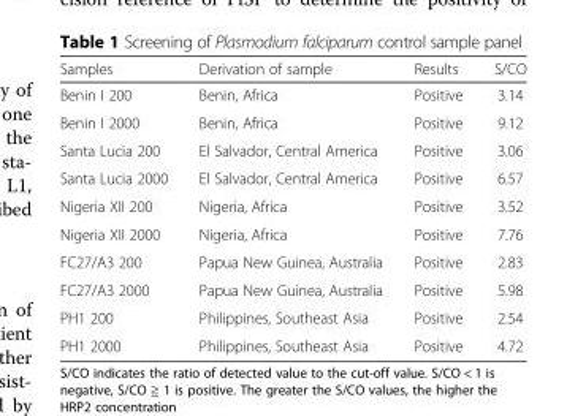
<table><thead><tr><td>Samples</td><td>Derivation of sample</td><td>Results</td><td>S/CO</td></tr></thead><tbody><tr><td>Benin I 200</td><td>Benin, Africa</td><td>Positive</td><td>3.14</td></tr><tr><td>Benin I 2000</td><td>Benin, Africa</td><td>Positive</td><td>9.12</td></tr><tr><td>Santa Lucia 200</td><td>El Salvador, Central America</td><td>Positive</td><td>3.06</td></tr><tr><td>Santa Lucia 2000</td><td>El Salvador, Central America</td><td>Positive</td><td>6.57</td></tr><tr><td>Nigeria XII 200</td><td>Nigeria, Africa</td><td>Positive</td><td>3.52</td></tr><tr><td>Nigeria XII 2000</td><td>Nigeria, Africa</td><td>Positive</td><td>7.76</td></tr><tr><td>FC27/A3 200</td><td>Papua New Guinea, Australia</td><td>Positive</td><td>2.83</td></tr><tr><td>FC27/A3 2000</td><td>Papua New Guinea, Australia</td><td>Positive</td><td>5.98</td></tr><tr><td>PH1 200</td><td>Philippines, Southeast Asia</td><td>Positive</td><td>2.54</td></tr><tr><td>PH1 2000</td><td>Philippines, Southeast Asia</td><td>Positive</td><td>4.72</td></tr></tbody></table>